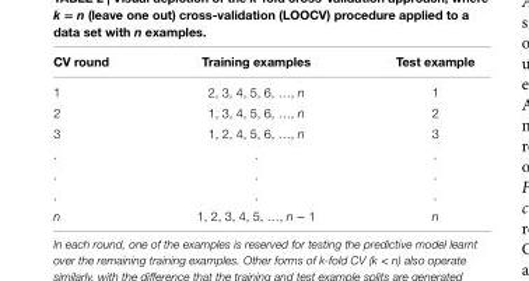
<table><thead><tr><td>Cv round</td><td>Training examples</td><td>Test example</td></tr></thead><tbody><tr><td>1</td><td>2, 3, 4, 5, 6, …, n</td><td>1</td></tr><tr><td>2</td><td>1, 3, 4, 5, 6, …, n</td><td>2</td></tr><tr><td>3</td><td>1, 2, 4, 5, 6, …, n</td><td>3</td></tr><tr><td>.</td><td>.</td><td>.</td></tr><tr><td>.</td><td>.</td><td>.</td></tr><tr><td>.</td><td>.</td><td>.</td></tr><tr><td>n</td><td>1, 2, 3, 4, 5, …, n − 1</td><td>n</td></tr></tbody></table>